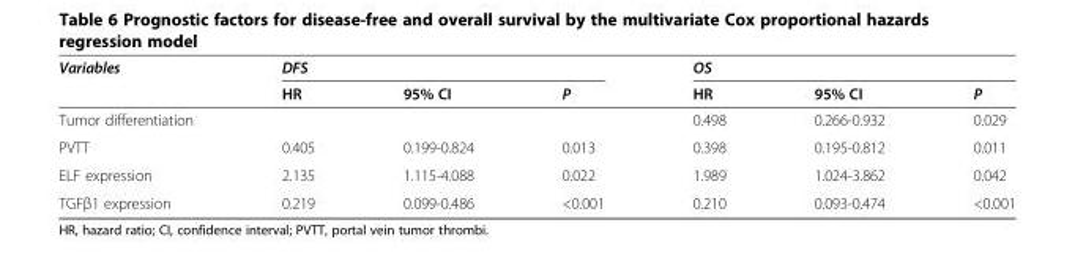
<table><thead><tr><td rowspan="2">Variables</td><td colspan="3">DFS</td><td colspan="3">OS</td></tr><tr><td>HR</td><td>95% CI</td><td>P</td><td>HR</td><td>95% CI</td><td>P</td></tr></thead><tbody><tr><td>Tumor differentiation</td><td></td><td></td><td></td><td>0.498</td><td>0.266-0.932</td><td>0.029</td></tr><tr><td>PVTT</td><td>0.405</td><td>0.199-0.824</td><td>0.013</td><td>0.398</td><td>0.195-0.812</td><td>0.011</td></tr><tr><td>ELF expression</td><td>2.135</td><td>1.115-4.088</td><td>0.022</td><td>1.989</td><td>1.024-3.862</td><td>0.042</td></tr><tr><td>TGFβ1 expression</td><td>0.219</td><td>0.099-0.486</td><td>&lt;0.001</td><td>0.210</td><td>0.093-0.474</td><td>&lt;0.001</td></tr></tbody></table>